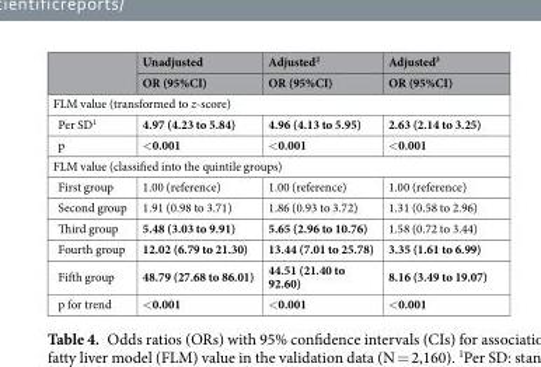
<table><thead><tr><td rowspan="2"></td><td rowspan="2">Unadjusted OR (95%CI)</td><td rowspan="2">Adjusted<sup>2</sup> OR (95%CI)</td><td rowspan="2">Adjusted<sup>3</sup> OR (95%CI)</td></tr><tr></tr></thead><tbody><tr><td colspan="4">FLM value (transformed to z-score)</td></tr><tr><td>Per SD<sup>1</sup></td><td>4.97 (4.23 to 5.84)</td><td>4.96 (4.13 to 5.95)</td><td>2.63 (2.14 to 3.25)</td></tr><tr><td>p</td><td>&lt;0.001</td><td>&lt;0.001</td><td>&lt;0.001</td></tr><tr><td colspan="4">FLM value (classified into the quintile groups)</td></tr><tr><td>First group</td><td>1.00 (reference)</td><td>1.00 (reference)</td><td>1.00 (reference)</td></tr><tr><td>Second group</td><td>1.91 (0.98 to 3.71)</td><td>1.86 (0.93 to 3.72)</td><td>1.31 (0.58 to 2.96)</td></tr><tr><td>Third group</td><td>5.48 (3.03 to 9.91)</td><td>5.65 (2.96 to 10.76)</td><td>1.58 (0.72 to 3.44)</td></tr><tr><td>Fourth group</td><td>12.02 (6.79 to 21.30)</td><td>13.44 (7.01 to 25.78)</td><td>3.35 (1.61 to 6.99)</td></tr><tr><td>Fifth group</td><td>48.79 (27.68 to 86.01)</td><td>44.51 (21.40 to 92.60)</td><td>8.16 (3.49 to 19.07)</td></tr><tr><td>p for trend</td><td>&lt;0.001</td><td>&lt;0.001</td><td>&lt;0.001</td></tr></tbody></table>